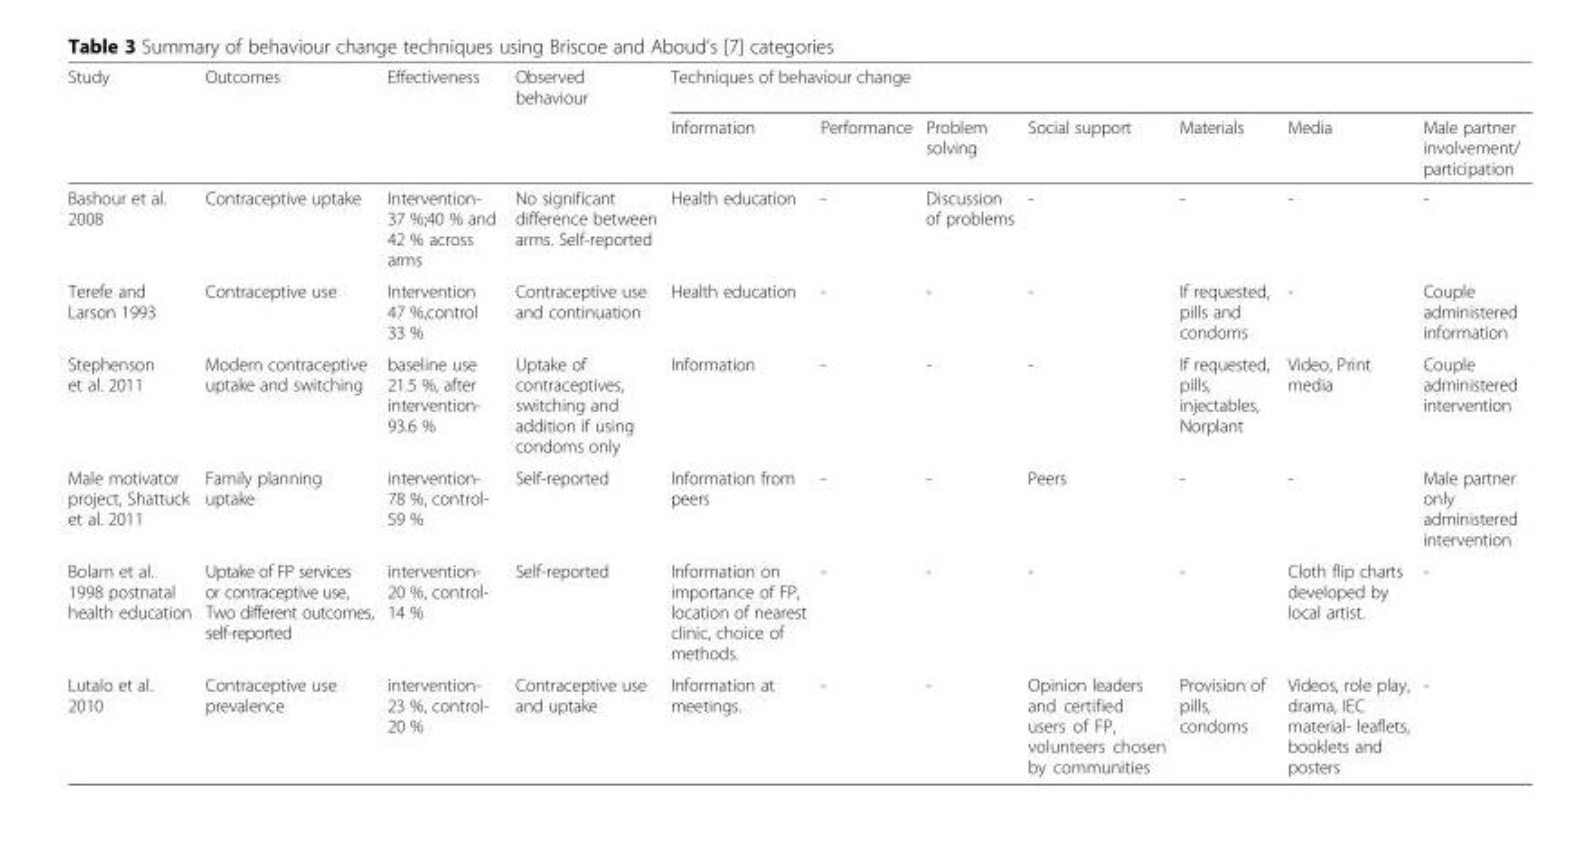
<table><thead><tr><td rowspan="2">Study</td><td rowspan="2">Outcomes</td><td rowspan="2">Effectiveness</td><td rowspan="2">Observed behaviour</td><td colspan="7">Techniques of behaviour change</td></tr><tr><td>Information</td><td>Performance</td><td>Problem solving</td><td>Social support</td><td>Materials</td><td>Media</td><td>Male partner involvement/ participation</td></tr></thead><tbody><tr><td>Bashour et al. 2008</td><td>Contraceptive uptake</td><td>Intervention- 37 %;40 % and 42 % across arms</td><td>No significant difference between arms. Self-reported</td><td>Health education</td><td>-</td><td>Discussion of problems</td><td>-</td><td>-</td><td>-</td><td>-</td></tr><tr><td>Terefe and Larson 1993</td><td>Contraceptive use</td><td>Intervention 47 %,control 33 %</td><td>Contraceptive use and continuation</td><td>Health education</td><td>-</td><td>-</td><td>-</td><td>If requested, pills and condoms</td><td>-</td><td>Couple administered information</td></tr><tr><td>Stephenson et al. 2011</td><td>Modern contraceptive uptake and switching</td><td>baseline use 21.5 %, after intervention- 93.6 %</td><td>Uptake of contraceptives, switching and addition if using condoms only</td><td>Information</td><td>-</td><td>-</td><td>-</td><td>If requested, pills, injectables, Norplant</td><td>Video, Print media</td><td>Couple administered intervention</td></tr><tr><td>Male motivator project, Shattuck et al. 2011</td><td>Family planning uptake</td><td>intervention- 78 %, control- 59 %</td><td>Self-reported</td><td>Information from peers</td><td>-</td><td>-</td><td>Peers</td><td>-</td><td>-</td><td>Male partner only administered intervention</td></tr><tr><td>Bolam et al. 1998 postnatal health education</td><td>Uptake of FP services or contraceptive use, Two different outcomes, self-reported</td><td>intervention- 20 %, control- 14 %</td><td>Self-reported</td><td>Information on importance of FP, location of nearest clinic, choice of methods.</td><td>-</td><td>-</td><td>-</td><td>-</td><td>Cloth flip charts developed by local artist.</td><td>-</td></tr><tr><td>Lutalo et al. 2010</td><td>Contraceptive use prevalence</td><td>intervention- 23 %, control- 20 %</td><td>Contraceptive use and uptake</td><td>Information at meetings.</td><td>-</td><td>-</td><td>Opinion leaders and certified users of FP, volunteers chosen by communities</td><td>Provision of pills, condoms</td><td>Videos, role play, drama, IEC material- leaflets, booklets and posters</td><td>-</td></tr></tbody></table>